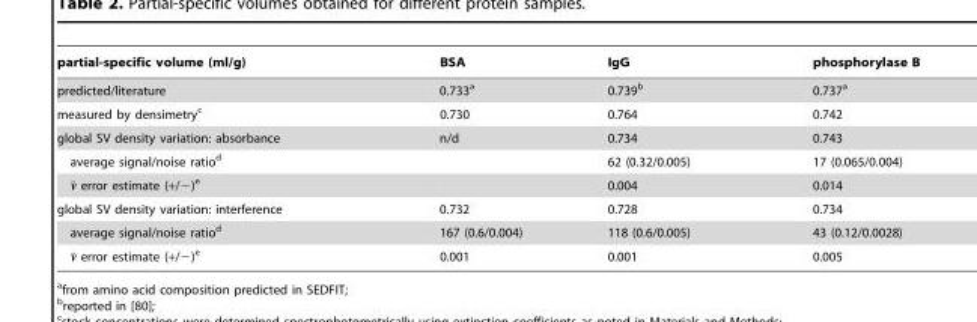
<table><thead><tr><td>partial-specific volume (ml/g)</td><td>BSA</td><td>IgG</td><td>phosphorylase B</td></tr></thead><tbody><tr><td>predicted/literature</td><td>0.733<sup>a</sup></td><td>0.739<sup>b</sup></td><td>0.737<sup>a</sup></td></tr><tr><td>measured by densimetry<sup>c</sup></td><td>0.730</td><td>0.764</td><td>0.742</td></tr><tr><td>global SV density variation: absorbance</td><td>n/d</td><td>0.734</td><td>0.743</td></tr><tr><td>average signal/noise ratio<sup>d</sup></td><td></td><td>62 (0.32/0.005)</td><td>17 (0.065/0.004)</td></tr><tr><td>�v error estimate (+/2)e</td><td></td><td>0.004</td><td>0.014</td></tr><tr><td>global SV density variation: interference</td><td>0.732</td><td>0.728</td><td>0.734</td></tr><tr><td>average signal/noise ratio<sup>d</sup></td><td>167 (0.6/0.004)</td><td>118 (0.6/0.005)</td><td>43 (0.12/0.0028)</td></tr><tr><td>�v error estimate (+/2)e</td><td>0.001</td><td>0.001</td><td>0.005</td></tr></tbody></table>